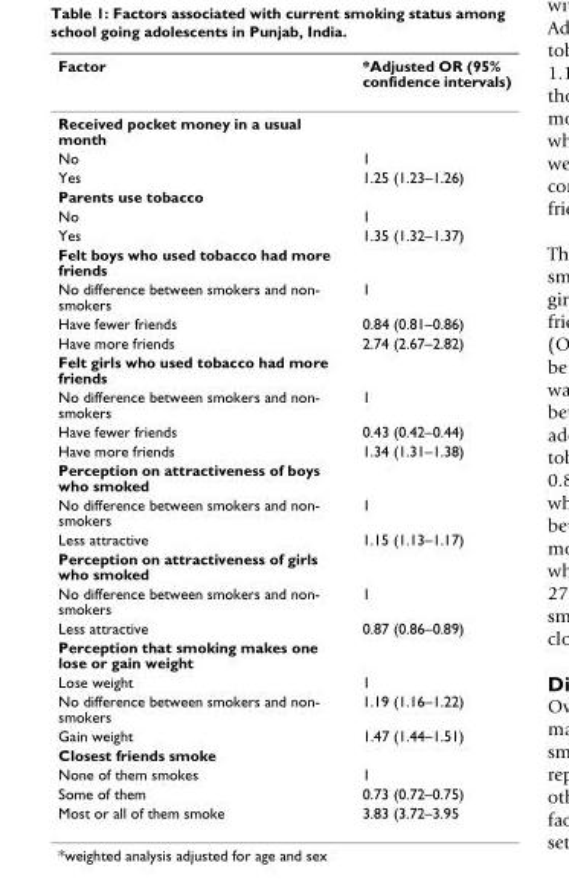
<table><thead><tr><td>Factor</td><td>*Adjusted OR (95% confidence intervals)</td></tr></thead><tbody><tr><td colspan="2">Received pocket money in a usual month</td></tr><tr><td>No</td><td>1</td></tr><tr><td>Yes</td><td>1.25 (1.23–1.26)</td></tr><tr><td colspan="2">Parents use tobacco</td></tr><tr><td>No</td><td>1</td></tr><tr><td>Yes</td><td>1.35 (1.32–1.37)</td></tr><tr><td colspan="2">Felt boys who used tobacco had more friends</td></tr><tr><td>No difference between smokers and non- smokers</td><td>1</td></tr><tr><td>Have fewer friends</td><td>0.84 (0.81–0.86)</td></tr><tr><td>Have more friends</td><td>2.74 (2.67–2.82)</td></tr><tr><td colspan="2">Felt girls who used tobacco had more friends</td></tr><tr><td>No difference between smokers and non- smokers</td><td>1</td></tr><tr><td>Have fewer friends</td><td>0.43 (0.42–0.44)</td></tr><tr><td>Have more friends</td><td>1.34 (1.31–1.38)</td></tr><tr><td colspan="2">Perception on attractiveness of boys who smoked</td></tr><tr><td>No difference between smokers and non- smokers</td><td>1</td></tr><tr><td>Less attractive</td><td>1.15 (1.13–1.17)</td></tr><tr><td colspan="2">Perception on attractiveness of girls who smoked</td></tr><tr><td>No difference between smokers and non- smokers</td><td>1</td></tr><tr><td>Less attractive</td><td>0.87 (0.86–0.89)</td></tr><tr><td colspan="2">Perception that smoking makes one lose or gain weight</td></tr><tr><td>Lose weight</td><td>1</td></tr><tr><td>No difference between smokers and non- smokers</td><td>1.19 (1.16–1.22)</td></tr><tr><td>Gain weight</td><td>1.47 (1.44–1.51)</td></tr><tr><td colspan="2">Closest friends smoke</td></tr><tr><td>None of them smokes</td><td>1</td></tr><tr><td>Some of them</td><td>0.73 (0.72–0.75)</td></tr><tr><td>Most or all of them smoke</td><td>3.83 (3.72–3.95</td></tr></tbody></table>